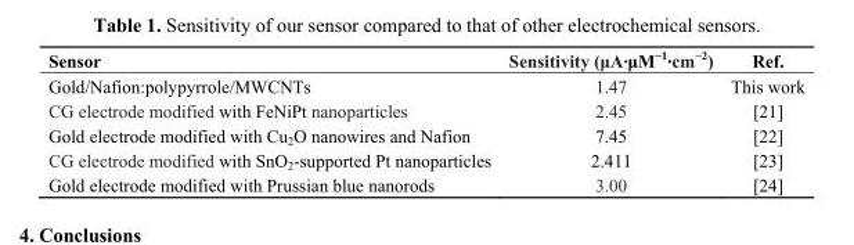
<table><thead><tr><td>Sensor</td><td>Sensitivity (μA·μM<sup>−1</sup>·cm<sup>−2</sup>)</td><td>Ref.</td></tr></thead><tbody><tr><td>Gold/Nafion:polypyrrole/MWCNTs</td><td>1.47</td><td>This work</td></tr><tr><td>CG electrode modified with FeNiPt nanoparticles</td><td>2.45</td><td>[21]</td></tr><tr><td>Gold electrode modified with Cu<sub>2</sub>O nanowires and Nafion</td><td>7.45</td><td>[22]</td></tr><tr><td>CG electrode modified with SnO<sub>2</sub>-supported Pt nanoparticles</td><td>2.411</td><td>[23]</td></tr><tr><td>Gold electrode modified with Prussian blue nanorods</td><td>3.00</td><td>[24]</td></tr></tbody></table>